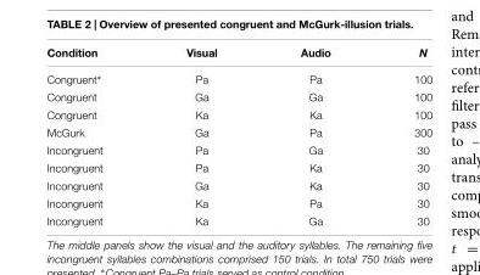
<table><thead><tr><td>Condition</td><td>Visual</td><td>Audio</td><td>N</td></tr></thead><tbody><tr><td>Congruent∗</td><td>Pa</td><td>Pa</td><td>100</td></tr><tr><td>Congruent</td><td>Ga</td><td>Ga</td><td>100</td></tr><tr><td>Congruent</td><td>Ka</td><td>Ka</td><td>100</td></tr><tr><td>McGurk</td><td>Ga</td><td>Pa</td><td>300</td></tr><tr><td>Incongruent</td><td>Pa</td><td>Ga</td><td>30</td></tr><tr><td>Incongruent</td><td>Pa</td><td>Ka</td><td>30</td></tr><tr><td>Incongruent</td><td>Ga</td><td>Ka</td><td>30</td></tr><tr><td>Incongruent</td><td>Ka</td><td>Pa</td><td>30</td></tr><tr><td>Incongruent</td><td>Ka</td><td>Ga</td><td>30</td></tr></tbody></table>